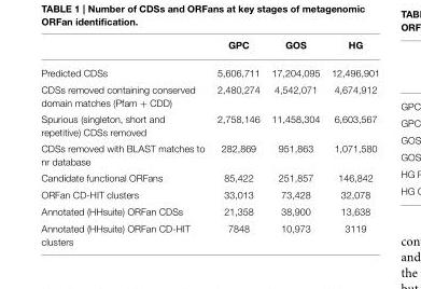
<table><thead><tr><td></td><td>GPC</td><td>GOS</td><td>HG</td></tr></thead><tbody><tr><td>Predicted CDSs</td><td>5,606,711</td><td>17,204,095</td><td>12,496,901</td></tr><tr><td>CDSs removed containing conserved domain matches (Pfam + CDD)</td><td>2,480,274</td><td>4,542,071</td><td>4,674,912</td></tr><tr><td>Spurious (singleton, short and repetitive) CDSs removed</td><td>2,758,146</td><td>11,458,304</td><td>6,603,567</td></tr><tr><td>CDSs removed with BLAST matches to nr database</td><td>282,869</td><td>951,863</td><td>1,071,580</td></tr><tr><td>Candidate functional ORFans</td><td>85,422</td><td>251,857</td><td>146,842</td></tr><tr><td>ORFan CD-HIT clusters</td><td>33,013</td><td>73,428</td><td>32,078</td></tr><tr><td>Annotated (HHsuite) ORFan CDSs</td><td>21,358</td><td>38,900</td><td>13,638</td></tr><tr><td>Annotated (HHsuite) ORFan CD-HIT clusters</td><td>7848</td><td>10,973</td><td>3119</td></tr></tbody></table>